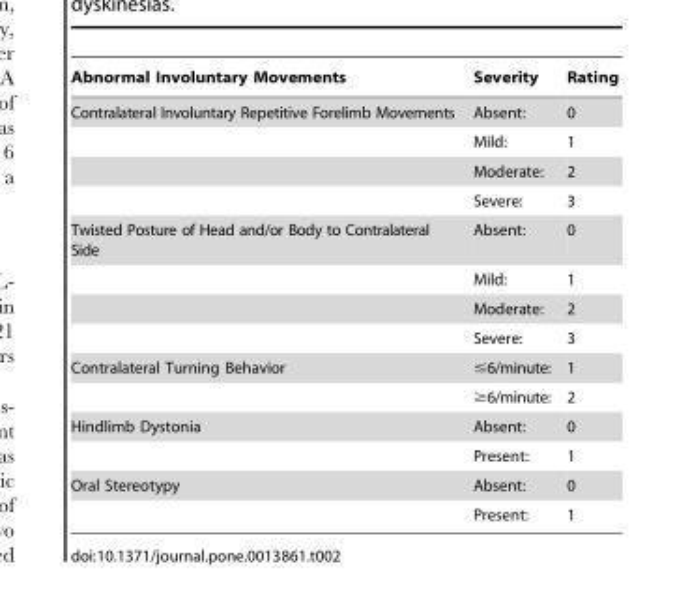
<table><thead><tr><td>Abnormal Involuntary Movements</td><td>Severity</td><td>Rating</td></tr></thead><tbody><tr><td rowspan="4">Contralateral Involuntary Repetitive Forelimb Movements</td><td>Absent:</td><td>0</td></tr><tr><td>Mild:</td><td>1</td></tr><tr><td>Moderate:</td><td>2</td></tr><tr><td>Severe:</td><td>3</td></tr><tr><td rowspan="4">Twisted Posture of Head and/or Body to Contralateral Side</td><td>Absent:</td><td>0</td></tr><tr><td>Mild:</td><td>1</td></tr><tr><td>Moderate:</td><td>2</td></tr><tr><td>Severe:</td><td>3</td></tr><tr><td rowspan="2">Contralateral Turning Behavior</td><td>≤6/minute:</td><td>1</td></tr><tr><td>≥6/minute:</td><td>2</td></tr><tr><td rowspan="2">Hindlimb Dystonia</td><td>Absent:</td><td>0</td></tr><tr><td>Present:</td><td>1</td></tr><tr><td rowspan="2">Oral Stereotypy</td><td>Absent:</td><td>0</td></tr><tr><td>Present:</td><td>1</td></tr></tbody></table>